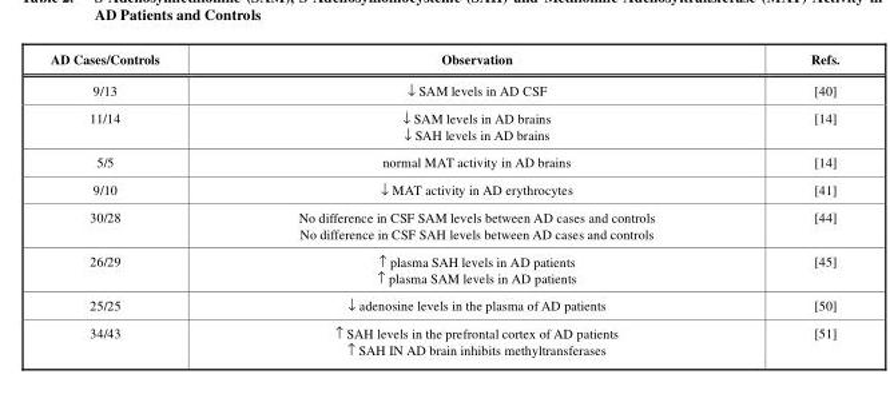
<table><thead><tr><td>AD Cases/Controls</td><td>Observation</td><td>Refs.</td></tr></thead><tbody><tr><td>9/13</td><td>↓ SAM levels in AD CSF</td><td>[40]</td></tr><tr><td>11/14</td><td>↓ SAM levels in AD brains ↓ SAH levels in AD brains</td><td>[14]</td></tr><tr><td>5/5</td><td>normal MAT activity in AD brains</td><td>[14]</td></tr><tr><td>9/10</td><td>↓ MAT activity in AD erythrocytes</td><td>[41]</td></tr><tr><td>30/28</td><td>No difference in CSF SAM levels between AD cases and controls No difference in CSF SAH levels between AD cases and controls</td><td>[44]</td></tr><tr><td>26/29</td><td>↑ plasma SAH levels in AD patients ↑ plasma SAM levels in AD patients</td><td>[45]</td></tr><tr><td>25/25</td><td>↓ adenosine levels in the plasma of AD patients</td><td>[50]</td></tr><tr><td>34/43</td><td>↑ SAH levels in the prefrontal cortex of AD patients ↑ SAH IN AD brain inhibits methyltransferases</td><td>[51]</td></tr></tbody></table>